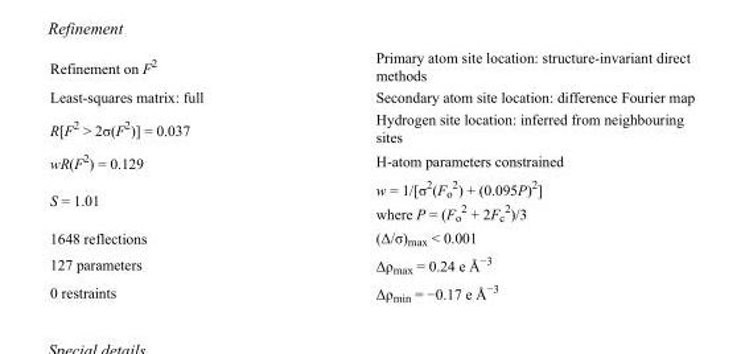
<table><tbody><tr><td>Refinement on F<sup>2</sup></td><td>Primary atom site location: structure-invariant direct methods</td></tr><tr><td>Least-squares matrix: full</td><td>Secondary atom site location: difference Fourier map</td></tr><tr><td>R[F<sup>2</sup> &gt; 2σ(F<sup>2</sup>)] = 0.037</td><td>Hydrogen site location: inferred from neighbouring sites</td></tr><tr><td>wR(F<sup>2</sup>) = 0.129</td><td>H-atom parameters constrained</td></tr><tr><td>S = 1.01</td><td>w = 1/[σ<sup>2</sup>(F<sub>o</sub> <sup>2</sup>) + (0.095P)<sup>2</sup>] where P = (F<sub>o</sub> <sup>2</sup> + 2F<sub>c</sub> <sup>2</sup>)/3</td></tr><tr><td>1648 reflections</td><td>(Δ/σ)<sub>max</sub> &lt; 0.001</td></tr><tr><td>127 parameters</td><td>Δρ<sub>max</sub> = 0.24 e Å<sup>−3</sup></td></tr><tr><td>0 restraints</td><td>Δρ<sub>min</sub> = −0.17 e Å<sup>−3</sup></td></tr></tbody></table>